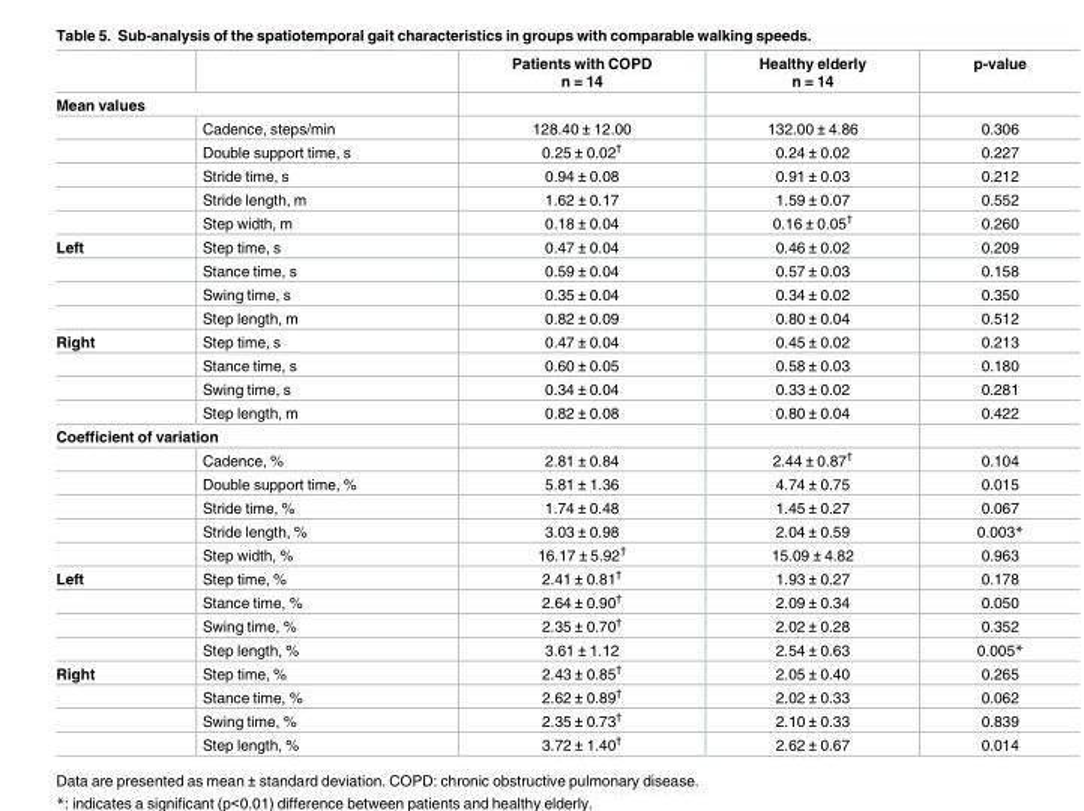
<table><thead><tr><td></td><td></td><td>Patients with COPD n = 14</td><td>Healthy elderly n = 14</td><td>p-value</td></tr></thead><tbody><tr><td colspan="5">Mean values</td></tr><tr><td></td><td>Cadence, steps/min</td><td>128.40 ± 12.00</td><td>132.00 ± 4.86</td><td>0.306</td></tr><tr><td></td><td>Double support time, s</td><td>0.25 ± 0.02<sup>†</sup></td><td>0.24 ± 0.02</td><td>0.227</td></tr><tr><td></td><td>Stride time, s</td><td>0.94 ± 0.08</td><td>0.91 ± 0.03</td><td>0.212</td></tr><tr><td></td><td>Stride length, m</td><td>1.62 ± 0.17</td><td>1.59 ± 0.07</td><td>0.552</td></tr><tr><td></td><td>Step width, m</td><td>0.18 ± 0.04</td><td>0.16 ± 0.05<sup>†</sup></td><td>0.260</td></tr><tr><td rowspan="4">Left</td><td>Step time, s</td><td>0.47 ± 0.04</td><td>0.46 ± 0.02</td><td>0.209</td></tr><tr><td>Stance time, s</td><td>0.59 ± 0.04</td><td>0.57 ± 0.03</td><td>0.158</td></tr><tr><td>Swing time, s</td><td>0.35 ± 0.04</td><td>0.34 ± 0.02</td><td>0.350</td></tr><tr><td>Step length, m</td><td>0.82 ± 0.09</td><td>0.80 ± 0.04</td><td>0.512</td></tr><tr><td rowspan="4">Right</td><td>Step time, s</td><td>0.47 ± 0.04</td><td>0.45 ± 0.02</td><td>0.213</td></tr><tr><td>Stance time, s</td><td>0.60 ± 0.05</td><td>0.58 ± 0.03</td><td>0.180</td></tr><tr><td>Swing time, s</td><td>0.34 ± 0.04</td><td>0.33 ± 0.02</td><td>0.281</td></tr><tr><td>Step length, m</td><td>0.82 ± 0.08</td><td>0.80 ± 0.04</td><td>0.422</td></tr><tr><td colspan="5">Coefficient of variation</td></tr><tr><td></td><td>Cadence, %</td><td>2.81 ± 0.84</td><td>2.44 ± 0.87<sup>†</sup></td><td>0.104</td></tr><tr><td></td><td>Double support time, %</td><td>5.81 ± 1.36</td><td>4.74 ± 0.75</td><td>0.015</td></tr><tr><td></td><td>Stride time, %</td><td>1.74 ± 0.48</td><td>1.45 ± 0.27</td><td>0.067</td></tr><tr><td></td><td>Stride length, %</td><td>3.03 ± 0.98</td><td>2.04 ± 0.59</td><td>0.003*</td></tr><tr><td></td><td>Step width, %</td><td>16.17 ± 5.92<sup>†</sup></td><td>15.09 ± 4.82</td><td>0.963</td></tr><tr><td rowspan="4">Left</td><td>Step time, %</td><td>2.41 ± 0.81<sup>†</sup></td><td>1.93 ± 0.27</td><td>0.178</td></tr><tr><td>Stance time, %</td><td>2.64 ± 0.90<sup>†</sup></td><td>2.09 ± 0.34</td><td>0.050</td></tr><tr><td>Swing time, %</td><td>2.35 ± 0.70<sup>†</sup></td><td>2.02 ± 0.28</td><td>0.352</td></tr><tr><td>Step length, %</td><td>3.61 ± 1.12</td><td>2.54 ± 0.63</td><td>0.005*</td></tr><tr><td rowspan="4">Right</td><td>Step time, %</td><td>2.43 ± 0.85<sup>†</sup></td><td>2.05 ± 0.40</td><td>0.265</td></tr><tr><td>Stance time, %</td><td>2.62 ± 0.89<sup>†</sup></td><td>2.02 ± 0.33</td><td>0.062</td></tr><tr><td>Swing time, %</td><td>2.35 ± 0.73<sup>†</sup></td><td>2.10 ± 0.33</td><td>0.839</td></tr><tr><td>Step length, %</td><td>3.72 ± 1.40<sup>†</sup></td><td>2.62 ± 0.67</td><td>0.014</td></tr></tbody></table>